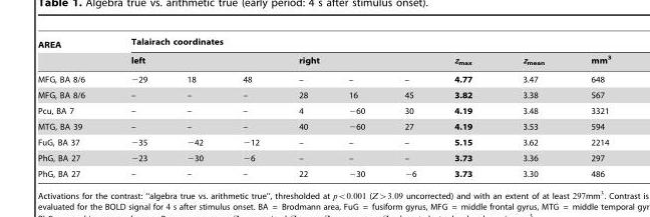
<table><thead><tr><td rowspan="3">AREA MFG, BA 8/6</td><td colspan="9">Talairach coordinates</td></tr><tr><td colspan="3">left</td><td colspan="3">right</td><td rowspan="2">z<sub>max</sub> 4.77</td><td rowspan="2">z<sub>mean</sub> 3.47</td><td rowspan="2">mm<sup>3</sup> 648</td></tr><tr><td>−29</td><td>18</td><td>48</td><td>–</td><td>–</td><td>–</td></tr></thead><tbody><tr><td>MFG, BA 8/6</td><td>–</td><td>–</td><td>–</td><td>28</td><td>16</td><td>45</td><td>3.82</td><td>3.38</td><td>567</td></tr><tr><td>Pcu, BA 7</td><td>–</td><td>–</td><td>–</td><td>4</td><td>−60</td><td>30</td><td>4.19</td><td>3.48</td><td>3321</td></tr><tr><td>MTG, BA 39</td><td>–</td><td>–</td><td>–</td><td>40</td><td>−60</td><td>27</td><td>4.19</td><td>3.53</td><td>594</td></tr><tr><td>FuG, BA 37</td><td>−35</td><td>−42</td><td>−12</td><td>–</td><td>–</td><td>–</td><td>5.15</td><td>3.62</td><td>2214</td></tr><tr><td>PhG, BA 27</td><td>−23</td><td>−30</td><td>−6</td><td>–</td><td>–</td><td>–</td><td>3.73</td><td>3.36</td><td>297</td></tr><tr><td>PhG, BA 27</td><td>–</td><td>–</td><td>–</td><td>22</td><td>−30</td><td>−6</td><td>3.73</td><td>3.30</td><td>486</td></tr></tbody></table>